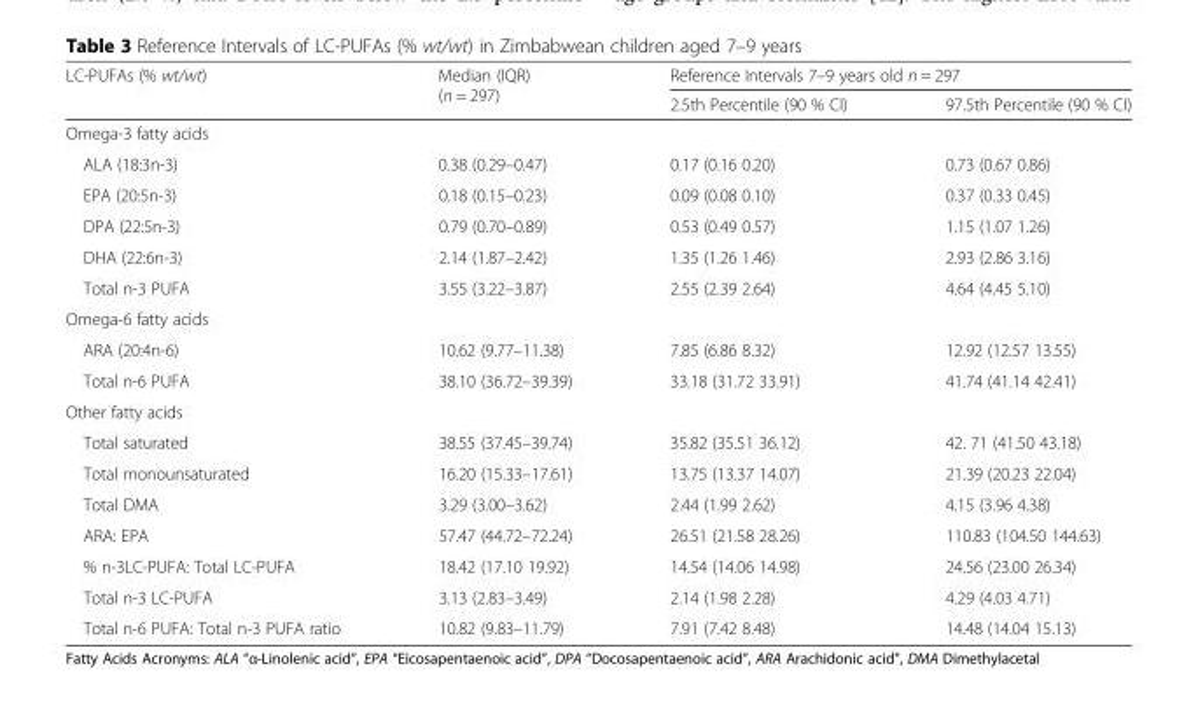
<table><thead><tr><td rowspan="2">LC-PUFAs (% wt/wt)</td><td rowspan="2">Median (IQR) (n = 297)</td><td colspan="2">Reference Intervals 7–9 years old n = 297</td></tr><tr><td>2.5th Percentile (90 % CI)</td><td>97.5th Percentile (90 % CI)</td></tr></thead><tbody><tr><td colspan="4">Omega-3 fatty acids</td></tr><tr><td>ALA (18:3n-3)</td><td>0.38 (0.29–0.47)</td><td>0.17 (0.16 0.20)</td><td>0.73 (0.67 0.86)</td></tr><tr><td>EPA (20:5n-3)</td><td>0.18 (0.15–0.23)</td><td>0.09 (0.08 0.10)</td><td>0.37 (0.33 0.45)</td></tr><tr><td>DPA (22:5n-3)</td><td>0.79 (0.70–0.89)</td><td>0.53 (0.49 0.57)</td><td>1.15 (1.07 1.26)</td></tr><tr><td>DHA (22:6n-3)</td><td>2.14 (1.87–2.42)</td><td>1.35 (1.26 1.46)</td><td>2.93 (2.86 3.16)</td></tr><tr><td>Total n-3 PUFA</td><td>3.55 (3.22–3.87)</td><td>2.55 (2.39 2.64)</td><td>4.64 (4.45 5.10)</td></tr><tr><td colspan="4">Omega-6 fatty acids</td></tr><tr><td>ARA (20:4n-6)</td><td>10.62 (9.77–11.38)</td><td>7.85 (6.86 8.32)</td><td>12.92 (12.57 13.55)</td></tr><tr><td>Total n-6 PUFA</td><td>38.10 (36.72–39.39)</td><td>33.18 (31.72 33.91)</td><td>41.74 (41.14 42.41)</td></tr><tr><td colspan="4">Other fatty acids</td></tr><tr><td>Total saturated</td><td>38.55 (37.45–39.74)</td><td>35.82 (35.51 36.12)</td><td>42. 71 (41.50 43.18)</td></tr><tr><td>Total monounsaturated</td><td>16.20 (15.33–17.61)</td><td>13.75 (13.37 14.07)</td><td>21.39 (20.23 22.04)</td></tr><tr><td>Total DMA</td><td>3.29 (3.00–3.62)</td><td>2.44 (1.99 2.62)</td><td>4.15 (3.96 4.38)</td></tr><tr><td>ARA: EPA</td><td>57.47 (44.72–72.24)</td><td>26.51 (21.58 28.26)</td><td>110.83 (104.50 144.63)</td></tr><tr><td>% n-3LC-PUFA: Total LC-PUFA</td><td>18.42 (17.10 19.92)</td><td>14.54 (14.06 14.98)</td><td>24.56 (23.00 26.34)</td></tr><tr><td>Total n-3 LC-PUFA</td><td>3.13 (2.83–3.49)</td><td>2.14 (1.98 2.28)</td><td>4.29 (4.03 4.71)</td></tr><tr><td>Total n-6 PUFA: Total n-3 PUFA ratio</td><td>10.82 (9.83–11.79)</td><td>7.91 (7.42 8.48)</td><td>14.48 (14.04 15.13)</td></tr></tbody></table>